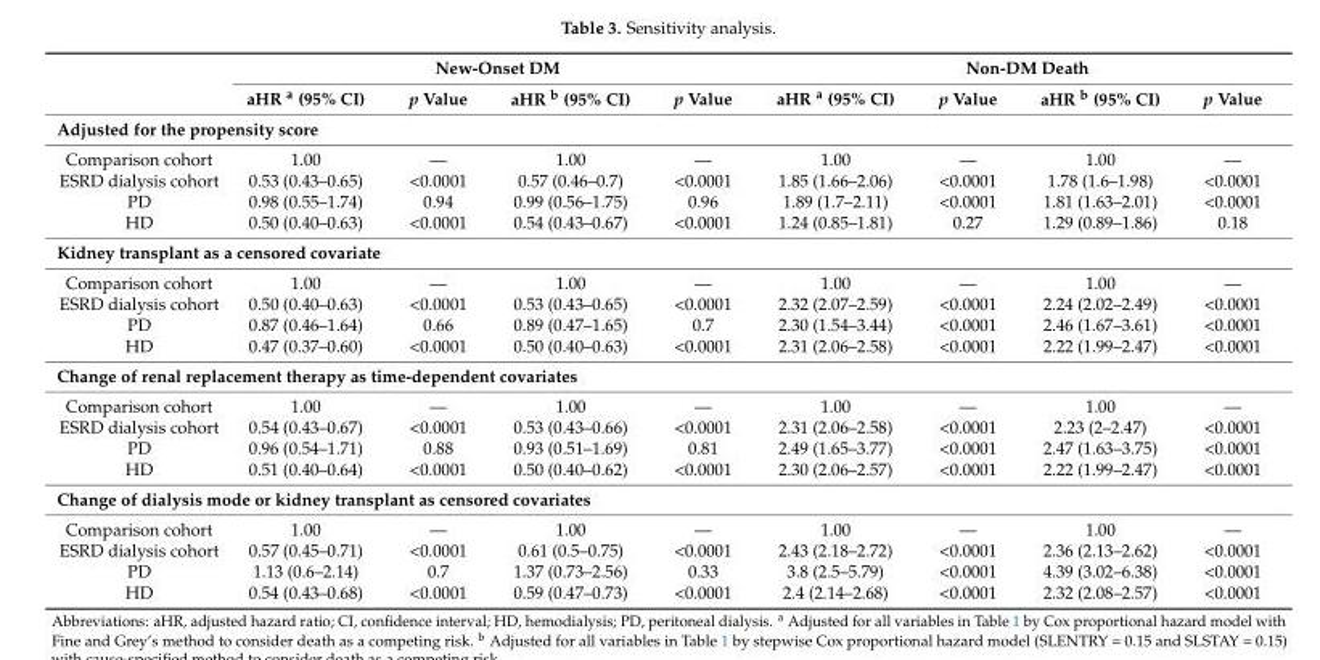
<table><thead><tr><td rowspan="2"></td><td colspan="4">New-Onset DM</td><td colspan="4">Non-DM Death</td></tr><tr><td>aHR <sup>a</sup> (95% CI)</td><td>p Value</td><td>aHR <sup>b</sup> (95% CI)</td><td>p Value</td><td>aHR <sup>a</sup> (95% CI)</td><td>p Value</td><td>aHR <sup>b</sup> (95% CI)</td><td>p Value</td></tr></thead><tbody><tr><td colspan="9">Adjusted for the propensity score</td></tr><tr><td>Comparison cohort</td><td>1.00</td><td>—</td><td>1.00</td><td>—</td><td>1.00</td><td>—</td><td>1.00</td><td>—</td></tr><tr><td>ESRD dialysis cohort</td><td>0.53 (0.43–0.65)</td><td>&lt;0.0001</td><td>0.57 (0.46–0.7)</td><td>&lt;0.0001</td><td>1.85 (1.66–2.06)</td><td>&lt;0.0001</td><td>1.78 (1.6–1.98)</td><td>&lt;0.0001</td></tr><tr><td>PD</td><td>0.98 (0.55–1.74)</td><td>0.94</td><td>0.99 (0.56–1.75)</td><td>0.96</td><td>1.89 (1.7–2.11)</td><td>&lt;0.0001</td><td>1.81 (1.63–2.01)</td><td>&lt;0.0001</td></tr><tr><td>HD</td><td>0.50 (0.40–0.63)</td><td>&lt;0.0001</td><td>0.54 (0.43–0.67)</td><td>&lt;0.0001</td><td>1.24 (0.85–1.81)</td><td>0.27</td><td>1.29 (0.89–1.86)</td><td>0.18</td></tr><tr><td colspan="9">Kidney transplant as a censored covariate</td></tr><tr><td>Comparison cohort</td><td>1.00</td><td>—</td><td>1.00</td><td>—</td><td>1.00</td><td>—</td><td>1.00</td><td>—</td></tr><tr><td>ESRD dialysis cohort</td><td>0.50 (0.40–0.63)</td><td>&lt;0.0001</td><td>0.53 (0.43–0.65)</td><td>&lt;0.0001</td><td>2.32 (2.07–2.59)</td><td>&lt;0.0001</td><td>2.24 (2.02–2.49)</td><td>&lt;0.0001</td></tr><tr><td>PD</td><td>0.87 (0.46–1.64)</td><td>0.66</td><td>0.89 (0.47–1.65)</td><td>0.7</td><td>2.30 (1.54–3.44)</td><td>&lt;0.0001</td><td>2.46 (1.67–3.61)</td><td>&lt;0.0001</td></tr><tr><td>HD</td><td>0.47 (0.37–0.60)</td><td>&lt;0.0001</td><td>0.50 (0.40–0.63)</td><td>&lt;0.0001</td><td>2.31 (2.06–2.58)</td><td>&lt;0.0001</td><td>2.22 (1.99–2.47)</td><td>&lt;0.0001</td></tr><tr><td colspan="9">Change of renal replacement therapy as time-dependent covariates</td></tr><tr><td>Comparison cohort</td><td>1.00</td><td>—</td><td>1.00</td><td>—</td><td>1.00</td><td>—</td><td>1.00</td><td>—</td></tr><tr><td>ESRD dialysis cohort</td><td>0.54 (0.43–0.67)</td><td>&lt;0.0001</td><td>0.53 (0.43–0.66)</td><td>&lt;0.0001</td><td>2.31 (2.06–2.58)</td><td>&lt;0.0001</td><td>2.23 (2–2.47)</td><td>&lt;0.0001</td></tr><tr><td>PD</td><td>0.96 (0.54–1.71)</td><td>0.88</td><td>0.93 (0.51–1.69)</td><td>0.81</td><td>2.49 (1.65–3.77)</td><td>&lt;0.0001</td><td>2.47 (1.63–3.75)</td><td>&lt;0.0001</td></tr><tr><td>HD</td><td>0.51 (0.40–0.64)</td><td>&lt;0.0001</td><td>0.50 (0.40–0.62)</td><td>&lt;0.0001</td><td>2.30 (2.06–2.57)</td><td>&lt;0.0001</td><td>2.22 (1.99–2.47)</td><td>&lt;0.0001</td></tr><tr><td colspan="9">Change of dialysis mode or kidney transplant as censored covariates</td></tr><tr><td>Comparison cohort</td><td>1.00</td><td>—</td><td>1.00</td><td>—</td><td>1.00</td><td>—</td><td>1.00</td><td>—</td></tr><tr><td>ESRD dialysis cohort</td><td>0.57 (0.45–0.71)</td><td>&lt;0.0001</td><td>0.61 (0.5–0.75)</td><td>&lt;0.0001</td><td>2.43 (2.18–2.72)</td><td>&lt;0.0001</td><td>2.36 (2.13–2.62)</td><td>&lt;0.0001</td></tr><tr><td>PD</td><td>1.13 (0.6–2.14)</td><td>0.7</td><td>1.37 (0.73–2.56)</td><td>0.33</td><td>3.8 (2.5–5.79)</td><td>&lt;0.0001</td><td>4.39 (3.02–6.38)</td><td>&lt;0.0001</td></tr><tr><td>HD</td><td>0.54 (0.43–0.68)</td><td>&lt;0.0001</td><td>0.59 (0.47–0.73)</td><td>&lt;0.0001</td><td>2.4 (2.14–2.68)</td><td>&lt;0.0001</td><td>2.32 (2.08–2.57)</td><td>&lt;0.0001</td></tr></tbody></table>